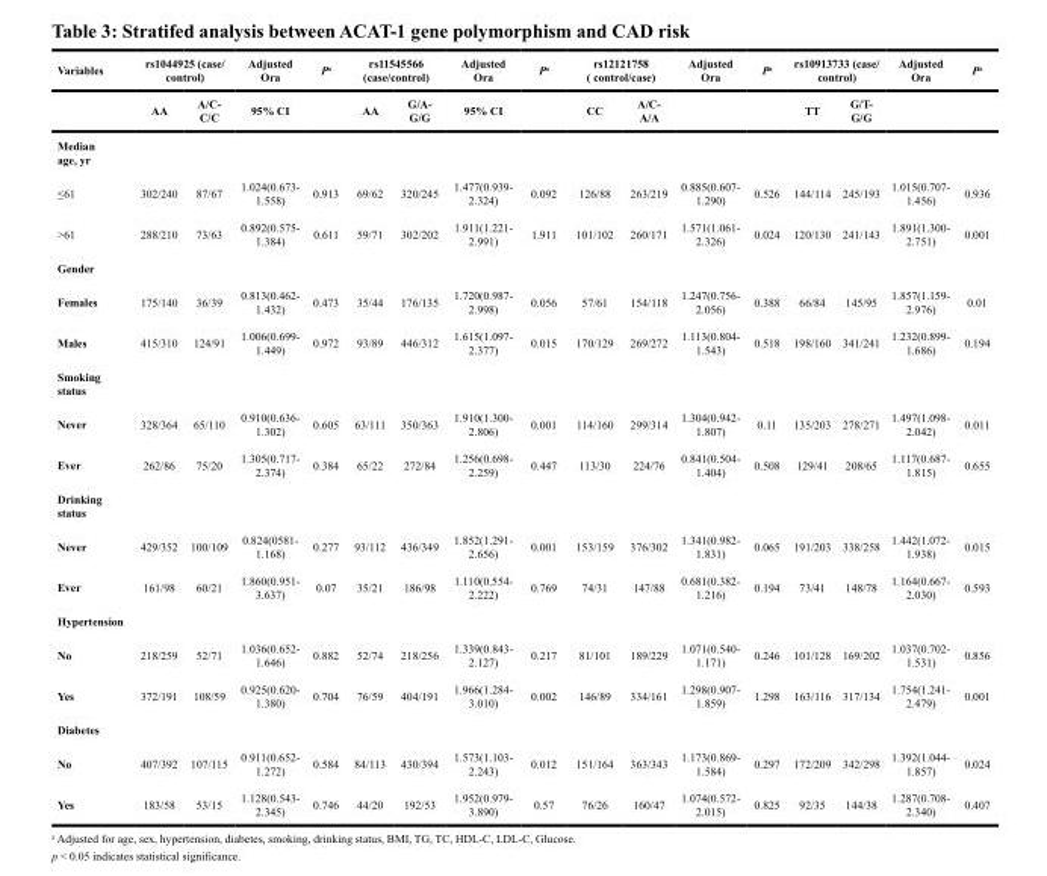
<table><thead><tr><td rowspan="2">Variables</td><td colspan="2">rs1044925 (case/ control)</td><td rowspan="2">Adjusted Ora 95% CI</td><td rowspan="2">P<sup>a</sup></td><td colspan="2">rs11545566 (case/control)</td><td rowspan="2">Adjusted Ora 95% CI</td><td rowspan="2">P<sup>a</sup></td><td colspan="2">rs12121758 ( control/case)</td><td rowspan="2">Adjusted Ora</td><td rowspan="2">P<sup>a</sup></td><td colspan="2">rs10913733 (case/ control)</td><td rowspan="2">Adjusted Ora</td><td rowspan="2">P<sup>a</sup></td></tr><tr><td>AA</td><td>A/C- C/C</td><td>AA</td><td>G/A- G/G</td><td>CC</td><td>A/C- A/A</td><td>TT</td><td>G/T- G/G</td></tr></thead><tbody><tr><td colspan="17">Median age, yr</td></tr><tr><td>≤61</td><td>302/240</td><td>87/67</td><td>1.024(0.673- 1.558)</td><td>0.913</td><td>69/62</td><td>320/245</td><td>1.477(0.939- 2.324)</td><td>0.092</td><td>126/88</td><td>263/219</td><td>0.885(0.607- 1.290)</td><td>0.526</td><td>144/114</td><td>245/193</td><td>1.015(0.707- 1.456)</td><td>0.936</td></tr><tr><td>&gt;61</td><td>288/210</td><td>73/63</td><td>0.892(0.575- 1.384)</td><td>0.611</td><td>59/71</td><td>302/202</td><td>1.911(1.221- 2.991)</td><td>1.911</td><td>101/102</td><td>260/171</td><td>1.571(1.061- 2.326)</td><td>0.024</td><td>120/130</td><td>241/143</td><td>1.891(1.300- 2.751)</td><td>0.001</td></tr><tr><td colspan="17">Gender</td></tr><tr><td>Females</td><td>175/140</td><td>36/39</td><td>0.813(0.462- 1.432)</td><td>0.473</td><td>35/44</td><td>176/135</td><td>1.720(0.987- 2.998)</td><td>0.056</td><td>57/61</td><td>154/118</td><td>1.247(0.756- 2.056)</td><td>0.388</td><td>66/84</td><td>145/95</td><td>1.857(1.159- 2.976)</td><td>0.01</td></tr><tr><td>Males</td><td>415/310</td><td>124/91</td><td>1.006(0.699- 1.449)</td><td>0.972</td><td>93/89</td><td>446/312</td><td>1.615(1.097- 2.377)</td><td>0.015</td><td>170/129</td><td>269/272</td><td>1.113(0.804- 1.543)</td><td>0.518</td><td>198/160</td><td>341/241</td><td>1.232(0.899- 1.686)</td><td>0.194</td></tr><tr><td colspan="17">Smoking status</td></tr><tr><td>Never</td><td>328/364</td><td>65/110</td><td>0.910(0.636- 1.302)</td><td>0.605</td><td>63/111</td><td>350/363</td><td>1.910(1.300- 2.806)</td><td>0.001</td><td>114/160</td><td>299/314</td><td>1.304(0.942- 1.807)</td><td>0.11</td><td>135/203</td><td>278/271</td><td>1.497(1.098- 2.042)</td><td>0.011</td></tr><tr><td>Ever</td><td>262/86</td><td>75/20</td><td>1.305(0.717- 2.374)</td><td>0.384</td><td>65/22</td><td>272/84</td><td>1.256(0.698- 2.259)</td><td>0.447</td><td>113/30</td><td>224/76</td><td>0.841(0.504- 1.404)</td><td>0.508</td><td>129/41</td><td>208/65</td><td>1.117(0.687- 1.815)</td><td>0.655</td></tr><tr><td colspan="17">Drinking status</td></tr><tr><td>Never</td><td>429/352</td><td>100/109</td><td>0.824(0581- 1.168)</td><td>0.277</td><td>93/112</td><td>436/349</td><td>1.852(1.291- 2.656)</td><td>0.001</td><td>153/159</td><td>376/302</td><td>1.341(0.982- 1.831)</td><td>0.065</td><td>191/203</td><td>338/258</td><td>1.442(1.072- 1.938)</td><td>0.015</td></tr><tr><td>Ever</td><td>161/98</td><td>60/21</td><td>1.860(0.951- 3.637)</td><td>0.07</td><td>35/21</td><td>186/98</td><td>1.110(0.554- 2.222)</td><td>0.769</td><td>74/31</td><td>147/88</td><td>0.681(0.382- 1.216)</td><td>0.194</td><td>73/41</td><td>148/78</td><td>1.164(0.667- 2.030)</td><td>0.593</td></tr><tr><td colspan="17">Hypertension</td></tr><tr><td>No</td><td>218/259</td><td>52/71</td><td>1.036(0.652- 1.646)</td><td>0.882</td><td>52/74</td><td>218/256</td><td>1.339(0.843- 2.127)</td><td>0.217</td><td>81/101</td><td>189/229</td><td>1.071(0.540- 1.171)</td><td>0.246</td><td>101/128</td><td>169/202</td><td>1.037(0.702- 1.531)</td><td>0.856</td></tr><tr><td>Yes</td><td>372/191</td><td>108/59</td><td>0.925(0.620- 1.380)</td><td>0.704</td><td>76/59</td><td>404/191</td><td>1.966(1.284- 3.010)</td><td>0.002</td><td>146/89</td><td>334/161</td><td>1.298(0.907- 1.859)</td><td>1.298</td><td>163/116</td><td>317/134</td><td>1.754(1.241- 2.479)</td><td>0.001</td></tr><tr><td colspan="17">Diabetes</td></tr><tr><td>No</td><td>407/392</td><td>107/115</td><td>0.911(0.652- 1.272)</td><td>0.584</td><td>84/113</td><td>430/394</td><td>1.573(1.103- 2.243)</td><td>0.012</td><td>151/164</td><td>363/343</td><td>1.173(0.869- 1.584)</td><td>0.297</td><td>172/209</td><td>342/298</td><td>1.392(1.044- 1.857)</td><td>0.024</td></tr><tr><td>Yes</td><td>183/58</td><td>53/15</td><td>1.128(0.543- 2.345)</td><td>0.746</td><td>44/20</td><td>192/53</td><td>1.952(0.979- 3.890)</td><td>0.57</td><td>76/26</td><td>160/47</td><td>1.074(0.572- 2.015)</td><td>0.825</td><td>92/35</td><td>144/38</td><td>1.287(0.708- 2.340)</td><td>0.407</td></tr></tbody></table>